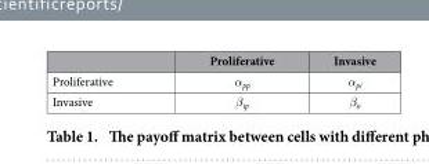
<table><thead><tr><td></td><td>Proliferative</td><td>Invasive</td></tr></thead><tbody><tr><td>Proliferative</td><td>α<sub>pp</sub></td><td>α<sub>pi</sub></td></tr><tr><td>Invasive</td><td>β<sub>ip</sub></td><td>β<sub>ii</sub></td></tr></tbody></table>